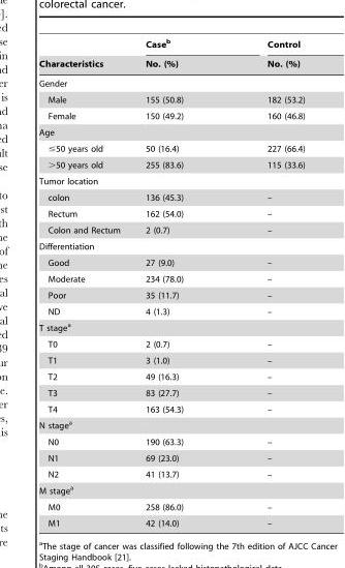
<table><thead><tr><td rowspan="2">Characteristics</td><td rowspan="2">Case<sup>b</sup> No. (%)</td><td rowspan="2">Control No. (%)</td></tr><tr></tr></thead><tbody><tr><td colspan="3">Gender</td></tr><tr><td>Male</td><td>155 (50.8)</td><td>182 (53.2)</td></tr><tr><td>Female</td><td>150 (49.2)</td><td>160 (46.8)</td></tr><tr><td colspan="3">Age</td></tr><tr><td>≤50 years old</td><td>50 (16.4)</td><td>227 (66.4)</td></tr><tr><td>&gt;50 years old</td><td>255 (83.6)</td><td>115 (33.6)</td></tr><tr><td colspan="3">Tumor location</td></tr><tr><td>colon</td><td>136 (45.3)</td><td>–</td></tr><tr><td>Rectum</td><td>162 (54.0)</td><td>–</td></tr><tr><td>Colon and Rectum</td><td>2 (0.7)</td><td>–</td></tr><tr><td colspan="3">Differentiation</td></tr><tr><td>Good</td><td>27 (9.0)</td><td>–</td></tr><tr><td>Moderate</td><td>234 (78.0)</td><td>–</td></tr><tr><td>Poor</td><td>35 (11.7)</td><td>–</td></tr><tr><td>ND</td><td>4 (1.3)</td><td>–</td></tr><tr><td colspan="3">T stage<sup>a</sup></td></tr><tr><td>T0</td><td>2 (0.7)</td><td>–</td></tr><tr><td>T1</td><td>3 (1.0)</td><td>–</td></tr><tr><td>T2</td><td>49 (16.3)</td><td>–</td></tr><tr><td>T3</td><td>83 (27.7)</td><td>–</td></tr><tr><td>T4</td><td>163 (54.3)</td><td>–</td></tr><tr><td colspan="3">N stage<sup>a</sup></td></tr><tr><td>N0</td><td>190 (63.3)</td><td>–</td></tr><tr><td>N1</td><td>69 (23.0)</td><td>–</td></tr><tr><td>N2</td><td>41 (13.7)</td><td>–</td></tr><tr><td colspan="3">M stage<sup>a</sup></td></tr><tr><td>M0</td><td>258 (86.0)</td><td>–</td></tr><tr><td>M1</td><td>42 (14.0)</td><td>–</td></tr></tbody></table>